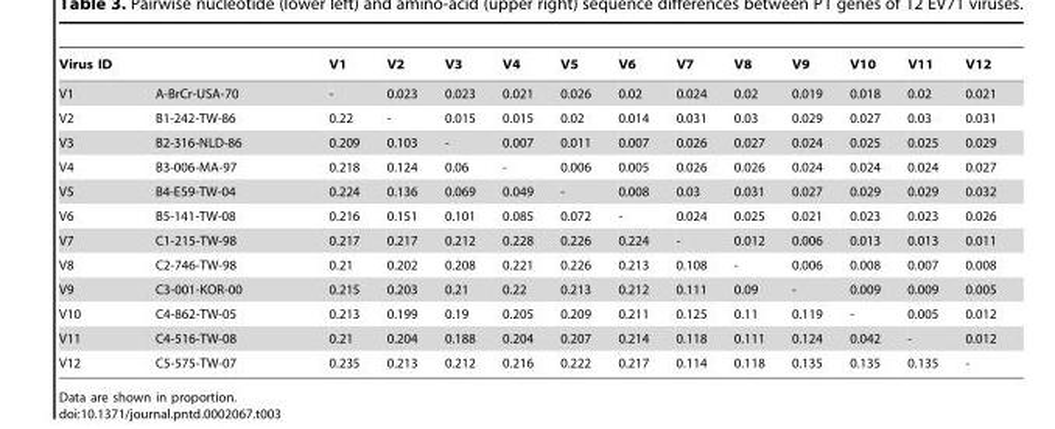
<table><thead><tr><td colspan="2">Virus ID</td><td rowspan="2">V1 -</td><td rowspan="2">V2 0.023</td><td rowspan="2">V3 0.023</td><td rowspan="2">V4 0.021</td><td rowspan="2">V5 0.026</td><td rowspan="2">V6 0.02</td><td rowspan="2">V7 0.024</td><td rowspan="2">V8 0.02</td><td rowspan="2">V9 0.019</td><td rowspan="2">V10 0.018</td><td rowspan="2">V11 0.02</td><td rowspan="2">V12 0.021</td></tr><tr><td>V1</td><td>A-BrCr-USA-70</td></tr></thead><tbody><tr><td>V2</td><td>B1-242-TW-86</td><td>0.22</td><td>-</td><td>0.015</td><td>0.015</td><td>0.02</td><td>0.014</td><td>0.031</td><td>0.03</td><td>0.029</td><td>0.027</td><td>0.03</td><td>0.031</td></tr><tr><td>V3</td><td>B2-316-NLD-86</td><td>0.209</td><td>0.103</td><td>-</td><td>0.007</td><td>0.011</td><td>0.007</td><td>0.026</td><td>0.027</td><td>0.024</td><td>0.025</td><td>0.025</td><td>0.029</td></tr><tr><td>V4</td><td>B3-006-MA-97</td><td>0.218</td><td>0.124</td><td>0.06</td><td>-</td><td>0.006</td><td>0.005</td><td>0.026</td><td>0.026</td><td>0.024</td><td>0.024</td><td>0.024</td><td>0.027</td></tr><tr><td>V5</td><td>B4-E59-TW-04</td><td>0.224</td><td>0.136</td><td>0.069</td><td>0.049</td><td>-</td><td>0.008</td><td>0.03</td><td>0.031</td><td>0.027</td><td>0.029</td><td>0.029</td><td>0.032</td></tr><tr><td>V6</td><td>B5-141-TW-08</td><td>0.216</td><td>0.151</td><td>0.101</td><td>0.085</td><td>0.072</td><td>-</td><td>0.024</td><td>0.025</td><td>0.021</td><td>0.023</td><td>0.023</td><td>0.026</td></tr><tr><td>V7</td><td>C1-215-TW-98</td><td>0.217</td><td>0.217</td><td>0.212</td><td>0.228</td><td>0.226</td><td>0.224</td><td>-</td><td>0.012</td><td>0.006</td><td>0.013</td><td>0.013</td><td>0.011</td></tr><tr><td>V8</td><td>C2-746-TW-98</td><td>0.21</td><td>0.202</td><td>0.208</td><td>0.221</td><td>0.226</td><td>0.213</td><td>0.108</td><td>-</td><td>0.006</td><td>0.008</td><td>0.007</td><td>0.008</td></tr><tr><td>V9</td><td>C3-001-KOR-00</td><td>0.215</td><td>0.203</td><td>0.21</td><td>0.22</td><td>0.213</td><td>0.212</td><td>0.111</td><td>0.09</td><td>-</td><td>0.009</td><td>0.009</td><td>0.005</td></tr><tr><td>V10</td><td>C4-862-TW-05</td><td>0.213</td><td>0.199</td><td>0.19</td><td>0.205</td><td>0.209</td><td>0.211</td><td>0.125</td><td>0.11</td><td>0.119</td><td>-</td><td>0.005</td><td>0.012</td></tr><tr><td>V11</td><td>C4-516-TW-08</td><td>0.21</td><td>0.204</td><td>0.188</td><td>0.204</td><td>0.207</td><td>0.214</td><td>0.118</td><td>0.111</td><td>0.124</td><td>0.042</td><td>-</td><td>0.012</td></tr><tr><td>V12</td><td>C5-575-TW-07</td><td>0.235</td><td>0.213</td><td>0.212</td><td>0.216</td><td>0.222</td><td>0.217</td><td>0.114</td><td>0.118</td><td>0.135</td><td>0.135</td><td>0.135</td><td>-</td></tr></tbody></table>